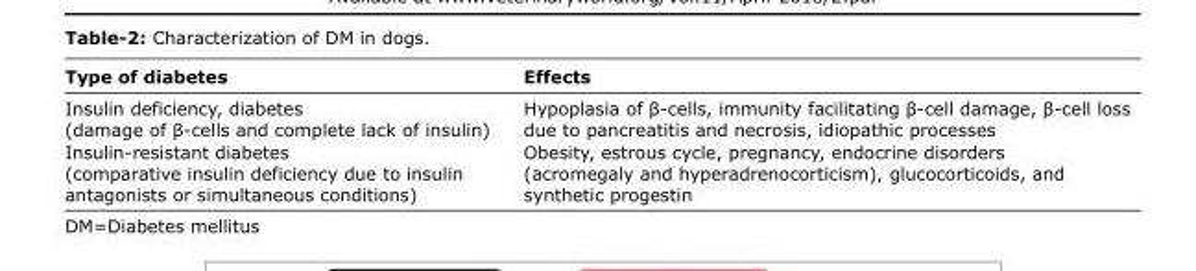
<table><thead><tr><td>Type of diabetes</td><td>Effects</td></tr></thead><tbody><tr><td>Insulin deficiency, diabetes (damage of β‑cells and complete lack of insulin)</td><td>Hypoplasia of β‑cells, immunity facilitating β‑cell damage, β‑cell loss due to pancreatitis and necrosis, idiopathic processes</td></tr><tr><td>Insulin-resistant diabetes (comparative insulin deficiency due to insulin antagonists or simultaneous conditions)</td><td>Obesity, estrous cycle, pregnancy, endocrine disorders (acromegaly and hyperadrenocorticism), glucocorticoids, and synthetic progestin</td></tr></tbody></table>